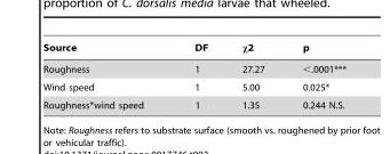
<table><thead><tr><td>Source</td><td>DF</td><td>χ2</td><td>p</td></tr></thead><tbody><tr><td>Roughness</td><td>1</td><td>27.27</td><td>&lt;.0001***</td></tr><tr><td>Wind speed</td><td>1</td><td>5.00</td><td>0.025*</td></tr><tr><td>Roughness*wind speed</td><td>1</td><td>1.35</td><td>0.244 N.S.</td></tr></tbody></table>